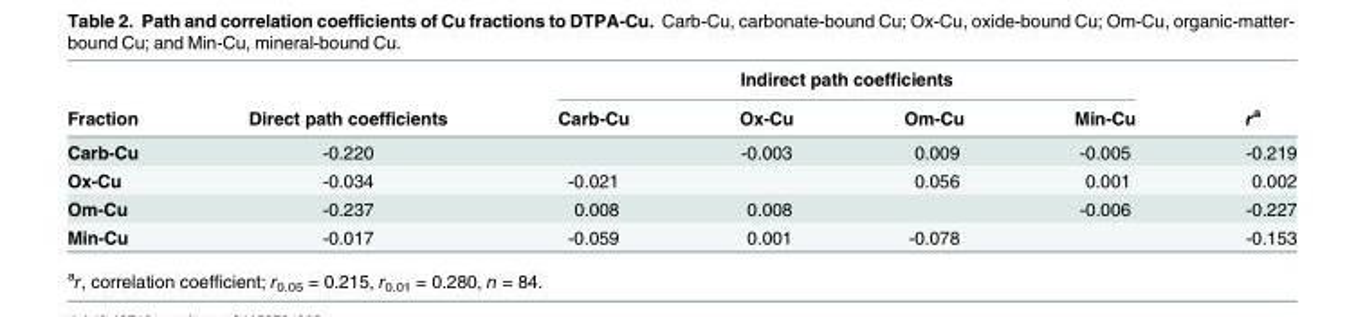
<table><thead><tr><td rowspan="2">Fraction</td><td rowspan="2">Direct path coefficients</td><td colspan="4">Indirect path coefficients</td><td rowspan="2">r<sup>a</sup></td></tr><tr><td>Carb-Cu</td><td>Ox-Cu</td><td>Om-Cu</td><td>Min-Cu</td></tr></thead><tbody><tr><td>Carb-Cu</td><td>-0.220</td><td></td><td>-0.003</td><td>0.009</td><td>-0.005</td><td>-0.219</td></tr><tr><td>Ox-Cu</td><td>-0.034</td><td>-0.021</td><td></td><td>0.056</td><td>0.001</td><td>0.002</td></tr><tr><td>Om-Cu</td><td>-0.237</td><td>0.008</td><td>0.008</td><td></td><td>-0.006</td><td>-0.227</td></tr><tr><td>Min-Cu</td><td>-0.017</td><td>-0.059</td><td>0.001</td><td>-0.078</td><td></td><td>-0.153</td></tr></tbody></table>